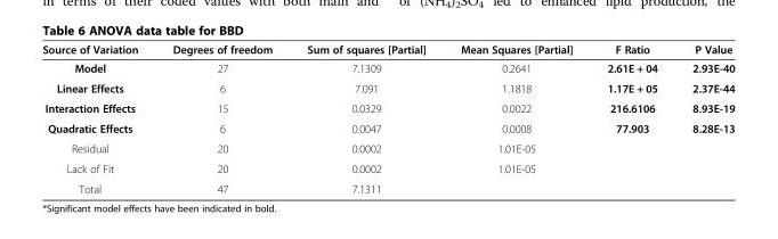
<table><thead><tr><td>Source of Variation</td><td>Degrees of freedom</td><td>Sum of squares [Partial]</td><td>Mean Squares [Partial]</td><td>F Ratio</td><td>P Value</td></tr></thead><tbody><tr><td>Model</td><td>27</td><td>7.1309</td><td>0.2641</td><td>2.61E + 04</td><td>2.93E-40</td></tr><tr><td>Linear Effects</td><td>6</td><td>7.091</td><td>1.1818</td><td>1.17E + 05</td><td>2.37E-44</td></tr><tr><td>Interaction Effects</td><td>15</td><td>0.0329</td><td>0.0022</td><td>216.6106</td><td>8.93E-19</td></tr><tr><td>Quadratic Effects</td><td>6</td><td>0.0047</td><td>0.0008</td><td>77.903</td><td>8.28E-13</td></tr><tr><td>Residual</td><td>20</td><td>0.0002</td><td>1.01E-05</td><td></td><td></td></tr><tr><td>Lack of Fit</td><td>20</td><td>0.0002</td><td>1.01E-05</td><td></td><td></td></tr><tr><td>Total</td><td>47</td><td>7.1311</td><td></td><td></td><td></td></tr></tbody></table>